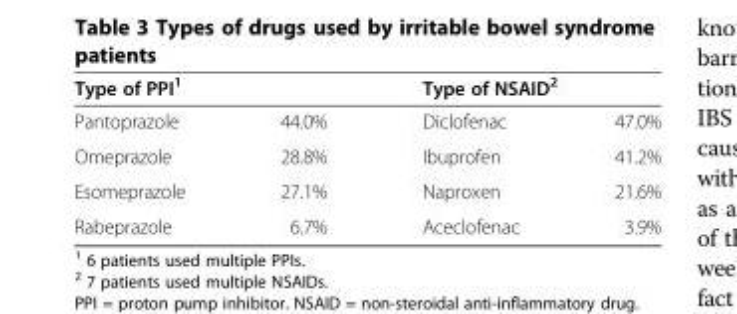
<table><thead><tr><td colspan="2">Type of PPI<sup>1</sup></td><td colspan="2">Type of NSAID<sup>2</sup></td></tr><tr><td>Pantoprazole</td><td>44.0%</td><td>Diclofenac</td><td>47.0%</td></tr></thead><tbody><tr><td>Omeprazole</td><td>28.8%</td><td>Ibuprofen</td><td>41.2%</td></tr><tr><td>Esomeprazole</td><td>27.1%</td><td>Naproxen</td><td>21.6%</td></tr><tr><td>Rabeprazole</td><td>6.7%</td><td>Aceclofenac</td><td>3.9%</td></tr></tbody></table>